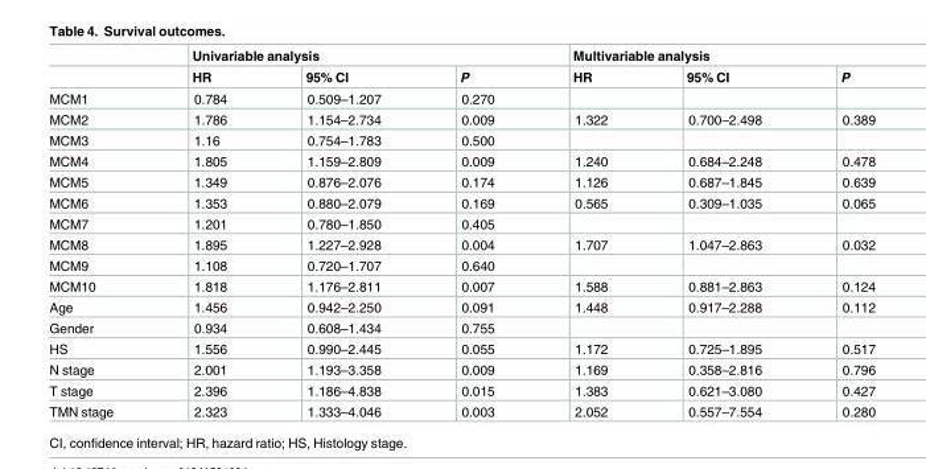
<table><thead><tr><td rowspan="2"></td><td colspan="3">Univariable analysis</td><td colspan="3">Multivariable analysis</td></tr><tr><td>HR</td><td>95% CI</td><td>P</td><td>HR</td><td>95% CI</td><td>P</td></tr></thead><tbody><tr><td>MCM1</td><td>0.784</td><td>0.509–1.207</td><td>0.270</td><td></td><td></td><td></td></tr><tr><td>MCM2</td><td>1.786</td><td>1.154–2.734</td><td>0.009</td><td>1.322</td><td>0.700–2.498</td><td>0.389</td></tr><tr><td>MCM3</td><td>1.16</td><td>0.754–1.783</td><td>0.500</td><td></td><td></td><td></td></tr><tr><td>MCM4</td><td>1.805</td><td>1.159–2.809</td><td>0.009</td><td>1.240</td><td>0.684–2.248</td><td>0.478</td></tr><tr><td>MCM5</td><td>1.349</td><td>0.876–2.076</td><td>0.174</td><td>1.126</td><td>0.687–1.845</td><td>0.639</td></tr><tr><td>MCM6</td><td>1.353</td><td>0.880–2.079</td><td>0.169</td><td>0.565</td><td>0.309–1.035</td><td>0.065</td></tr><tr><td>MCM7</td><td>1.201</td><td>0.780–1.850</td><td>0.405</td><td></td><td></td><td></td></tr><tr><td>MCM8</td><td>1.895</td><td>1.227–2.928</td><td>0.004</td><td>1.707</td><td>1.047–2.863</td><td>0.032</td></tr><tr><td>MCM9</td><td>1.108</td><td>0.720–1.707</td><td>0.640</td><td></td><td></td><td></td></tr><tr><td>MCM10</td><td>1.818</td><td>1.176–2.811</td><td>0.007</td><td>1.588</td><td>0.881–2.863</td><td>0.124</td></tr><tr><td>Age</td><td>1.456</td><td>0.942–2.250</td><td>0.091</td><td>1.448</td><td>0.917–2.288</td><td>0.112</td></tr><tr><td>Gender</td><td>0.934</td><td>0.608–1.434</td><td>0.755</td><td></td><td></td><td></td></tr><tr><td>HS</td><td>1.556</td><td>0.990–2.445</td><td>0.055</td><td>1.172</td><td>0.725–1.895</td><td>0.517</td></tr><tr><td>N stage</td><td>2.001</td><td>1.193–3.358</td><td>0.009</td><td>1.169</td><td>0.358–2.816</td><td>0.796</td></tr><tr><td>T stage</td><td>2.396</td><td>1.186–4.838</td><td>0.015</td><td>1.383</td><td>0.621–3.080</td><td>0.427</td></tr><tr><td>TMN stage</td><td>2.323</td><td>1.333–4.046</td><td>0.003</td><td>2.052</td><td>0.557–7.554</td><td>0.280</td></tr></tbody></table>